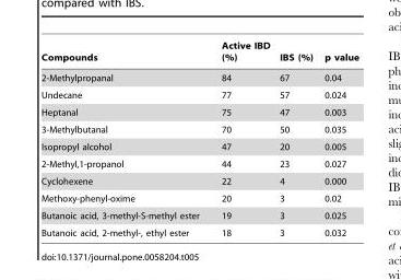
<table><thead><tr><td>Compounds</td><td>Active IBD (%)</td><td>IBS (%)</td><td>p value</td></tr></thead><tbody><tr><td>2-Methylpropanal</td><td>84</td><td>67</td><td>0.04</td></tr><tr><td>Undecane</td><td>77</td><td>57</td><td>0.024</td></tr><tr><td>Heptanal</td><td>75</td><td>47</td><td>0.003</td></tr><tr><td>3-Methylbutanal</td><td>70</td><td>50</td><td>0.035</td></tr><tr><td>Isopropyl alcohol</td><td>47</td><td>20</td><td>0.005</td></tr><tr><td>2-Methyl,1-propanol</td><td>44</td><td>23</td><td>0.027</td></tr><tr><td>Cyclohexene</td><td>22</td><td>4</td><td>0.000</td></tr><tr><td>Methoxy-phenyl-oxime</td><td>20</td><td>3</td><td>0.02</td></tr><tr><td>Butanoic acid, 3-methyl-S-methyl ester</td><td>19</td><td>3</td><td>0.025</td></tr><tr><td>Butanoic acid, 2-methyl-, ethyl ester</td><td>18</td><td>3</td><td>0.032</td></tr></tbody></table>